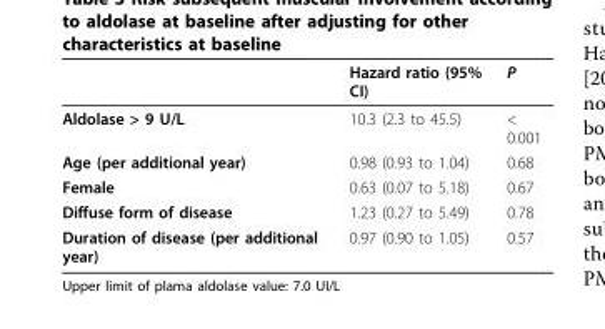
<table><thead><tr><td></td><td>Hazard ratio (95% CI)</td><td>P</td></tr></thead><tbody><tr><td>Aldolase &gt; 9 U/L</td><td>10.3 (2.3 to 45.5)</td><td>&lt; 0.001</td></tr><tr><td>Age (per additional year)</td><td>0.98 (0.93 to 1.04)</td><td>0.68</td></tr><tr><td>Female</td><td>0.63 (0.07 to 5.18)</td><td>0.67</td></tr><tr><td>Diffuse form of disease</td><td>1.23 (0.27 to 5.49)</td><td>0.78</td></tr><tr><td>Duration of disease (per additional year)</td><td>0.97 (0.90 to 1.05)</td><td>0.57</td></tr></tbody></table>